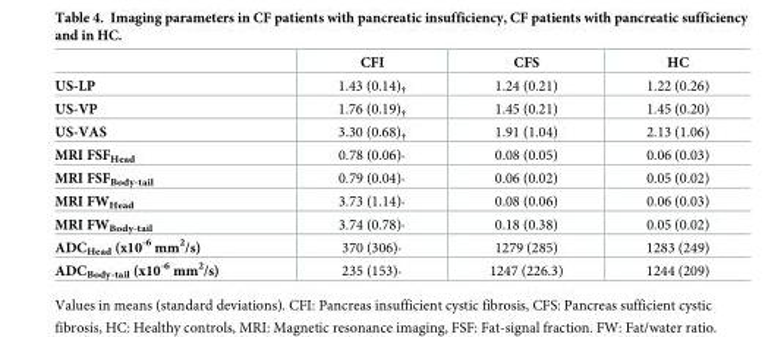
<table><thead><tr><td></td><td>CFI</td><td>CFS</td><td>HC</td></tr></thead><tbody><tr><td>US-LP</td><td>1.43 (0.14)<sub>†</sub></td><td>1.24 (0.21)</td><td>1.22 (0.26)</td></tr><tr><td>US-VP</td><td>1.76 (0.19)<sub>†</sub></td><td>1.45 (0.21)</td><td>1.45 (0.20)</td></tr><tr><td>US-VAS</td><td>3.30 (0.68)<sub>†</sub></td><td>1.91 (1.04)</td><td>2.13 (1.06)</td></tr><tr><td>MRI FSF<sub>Head</sub></td><td>0.78 (0.06)<sub>*</sub></td><td>0.08 (0.05)</td><td>0.06 (0.03)</td></tr><tr><td>MRI FSF<sub>Body-tail</sub></td><td>0.79 (0.04)<sub>*</sub></td><td>0.06 (0.02)</td><td>0.05 (0.02)</td></tr><tr><td>MRI FW<sub>Head</sub></td><td>3.73 (1.14)<sub>*</sub></td><td>0.08 (0.06)</td><td>0.06 (0.03)</td></tr><tr><td>MRI FW<sub>Body-tail</sub></td><td>3.74 (0.78)<sub>*</sub></td><td>0.18 (0.38)</td><td>0.05 (0.02)</td></tr><tr><td>ADC<sub>Head</sub> (x10<sup>-6</sup> mm<sup>2</sup>/s)</td><td>370 (306)<sub>*</sub></td><td>1279 (285)</td><td>1283 (249)</td></tr><tr><td>ADC<sub>Body-tail</sub> (x10<sup>-6</sup> mm<sup>2</sup>/s)</td><td>235 (153)<sub>*</sub></td><td>1247 (226.3)</td><td>1244 (209)</td></tr></tbody></table>